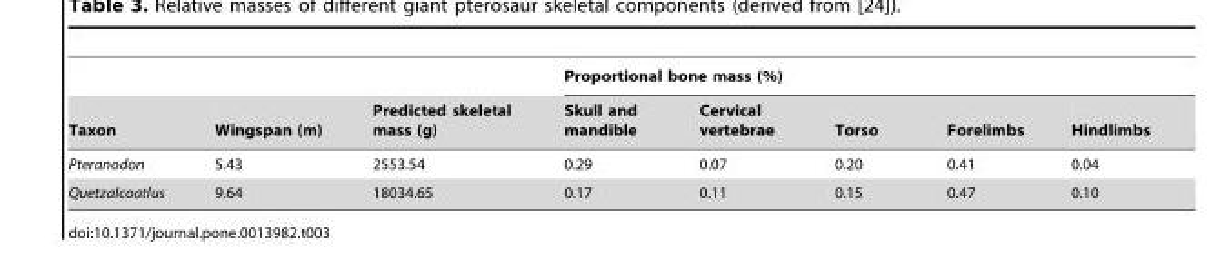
<table><thead><tr><td rowspan="2">Taxon</td><td rowspan="2">Wingspan (m)</td><td rowspan="2">Predicted skeletal mass (g)</td><td colspan="5">Proportional bone mass (%)</td></tr><tr><td>Skull and mandible</td><td>Cervical vertebrae</td><td>Torso</td><td>Forelimbs</td><td>Hindlimbs</td></tr></thead><tbody><tr><td>Pteranodon</td><td>5.43</td><td>2553.54</td><td>0.29</td><td>0.07</td><td>0.20</td><td>0.41</td><td>0.04</td></tr><tr><td>Quetzalcoatlus</td><td>9.64</td><td>18034.65</td><td>0.17</td><td>0.11</td><td>0.15</td><td>0.47</td><td>0.10</td></tr></tbody></table>